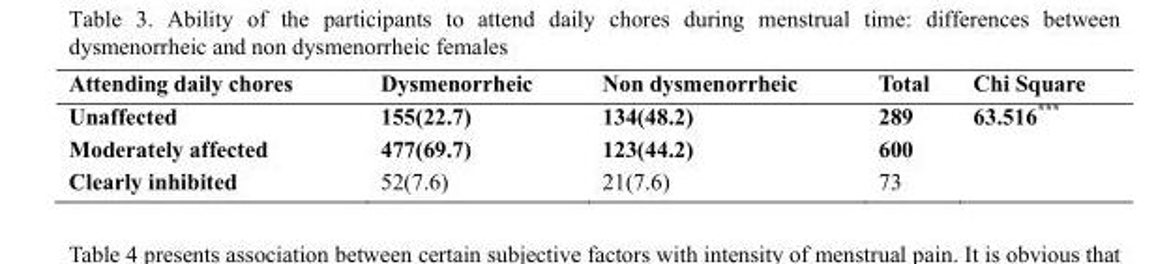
<table><thead><tr><td>Attending daily chores</td><td>Dysmenorrheic</td><td>Non dysmenorrheic</td><td>Total</td><td>Chi Square</td></tr></thead><tbody><tr><td>Unaffected</td><td>155(22.7)</td><td>134(48.2)</td><td>289</td><td>63.516***</td></tr><tr><td>Moderately affected</td><td>477(69.7)</td><td>123(44.2)</td><td>600</td><td></td></tr><tr><td>Clearly inhibited</td><td>52(7.6)</td><td>21(7.6)</td><td>73</td><td></td></tr></tbody></table>